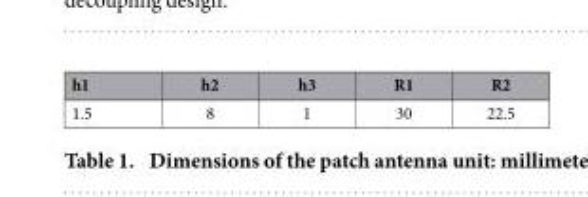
<table><thead><tr><td>h1</td><td>h2</td><td>h3</td><td>R1</td><td>R2</td></tr></thead><tbody><tr><td>1.5</td><td>8</td><td>1</td><td>30</td><td>22.5</td></tr></tbody></table>